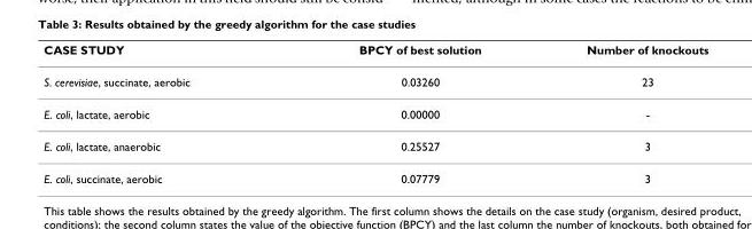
<table><thead><tr><td>CASE STUDY</td><td>BPCY of best solution</td><td>Number of knockouts</td></tr></thead><tbody><tr><td>S. cerevisiae, succinate, aerobic</td><td>0.03260</td><td>23</td></tr><tr><td>E. coli, lactate, aerobic</td><td>0.00000</td><td>-</td></tr><tr><td>E. coli, lactate, anaerobic</td><td>0.25527</td><td>3</td></tr><tr><td>E. coli, succinate, aerobic</td><td>0.07779</td><td>3</td></tr></tbody></table>